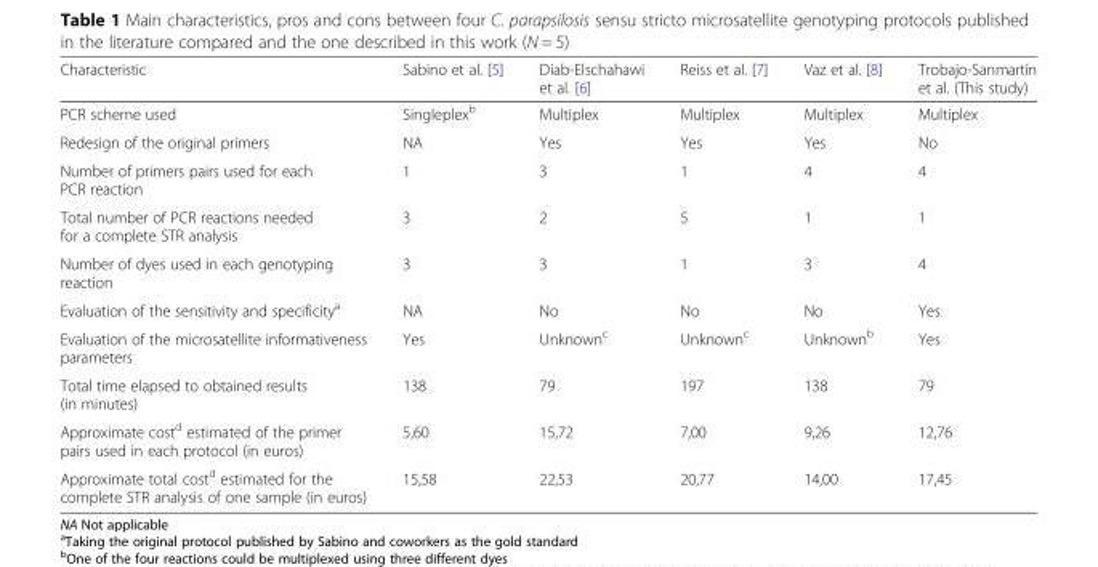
<table><thead><tr><td>Characteristic</td><td>Sabino et al. [5]</td><td>Diab-Elschahawi et al. [6]</td><td>Reiss et al. [7]</td><td>Vaz et al. [8]</td><td>Trobajo-Sanmartín et al. (This study)</td></tr></thead><tbody><tr><td>PCR scheme used</td><td>Singleplex<sup>b</sup></td><td>Multiplex</td><td>Multiplex</td><td>Multiplex</td><td>Multiplex</td></tr><tr><td>Redesign of the original primers</td><td>NA</td><td>Yes</td><td>Yes</td><td>Yes</td><td>No</td></tr><tr><td>Number of primers pairs used for each PCR reaction</td><td>1</td><td>3</td><td>1</td><td>4</td><td>4</td></tr><tr><td>Total number of PCR reactions needed for a complete STR analysis</td><td>3</td><td>2</td><td>5</td><td>1</td><td>1</td></tr><tr><td>Number of dyes used in each genotyping reaction</td><td>3</td><td>3</td><td>1</td><td>3</td><td>4</td></tr><tr><td>Evaluation of the sensitivity and specificity<sup>a</sup></td><td>NA</td><td>No</td><td>No</td><td>No</td><td>Yes</td></tr><tr><td>Evaluation of the microsatellite informativeness parameters</td><td>Yes</td><td>Unknown<sup>c</sup></td><td>Unknown<sup>c</sup></td><td>Unknown<sup>b</sup></td><td>Yes</td></tr><tr><td>Total time elapsed to obtained results (in minutes)</td><td>138</td><td>79</td><td>197</td><td>138</td><td>79</td></tr><tr><td>Approximate cost<sup>d</sup> estimated of the primer pairs used in each protocol (in euros)</td><td>5,60</td><td>15,72</td><td>7,00</td><td>9,26</td><td>12,76</td></tr><tr><td>Approximate total cost<sup>d</sup> estimated for the complete STR analysis of one sample (in euros)</td><td>15,58</td><td>22,53</td><td>20,77</td><td>14,00</td><td>17,45</td></tr></tbody></table>